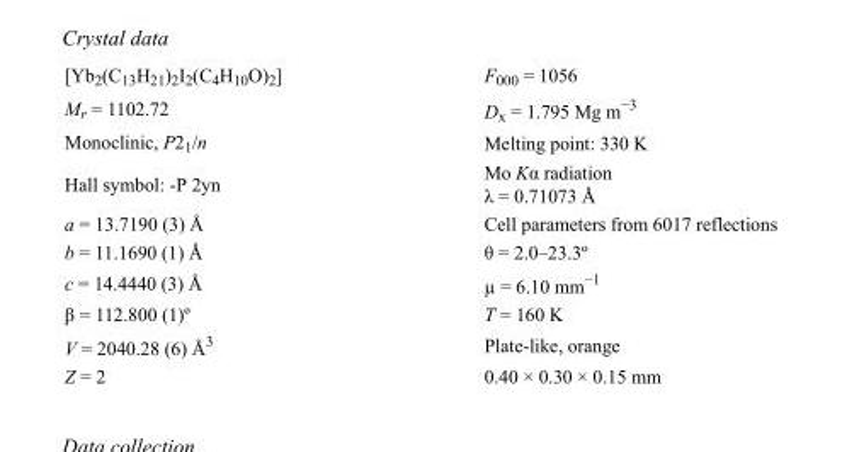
<table><tbody><tr><td>[Yb<sub>2</sub>(C<sub>13</sub>H<sub>21</sub>)<sub>2</sub>I<sub>2</sub>(C<sub>4</sub>H<sub>10</sub>O)<sub>2</sub>]</td><td>F<sub>000</sub> = 1056</td></tr><tr><td>M<sub>r</sub> = 1102.72</td><td>D<sub>x</sub> = 1.795 Mg m<sup>−3</sup></td></tr><tr><td>Monoclinic, P2<sub>1</sub>/n</td><td>Melting point: 330 K</td></tr><tr><td>Hall symbol: -P 2yn</td><td>Mo Kα radiation λ = 0.71073 Å</td></tr><tr><td>a = 13.7190 (3) Å</td><td>Cell parameters from 6017 reflections</td></tr><tr><td>b = 11.1690 (1) Å</td><td>θ = 2.0–23.3º</td></tr><tr><td>c = 14.4440 (3) Å</td><td>µ = 6.10 mm<sup>−1</sup></td></tr><tr><td>β = 112.800 (1)º</td><td>T = 160 K</td></tr><tr><td>V = 2040.28 (6) Å<sup>3</sup></td><td>Plate-like, orange</td></tr><tr><td>Z = 2</td><td>0.40 × 0.30 × 0.15 mm</td></tr></tbody></table>